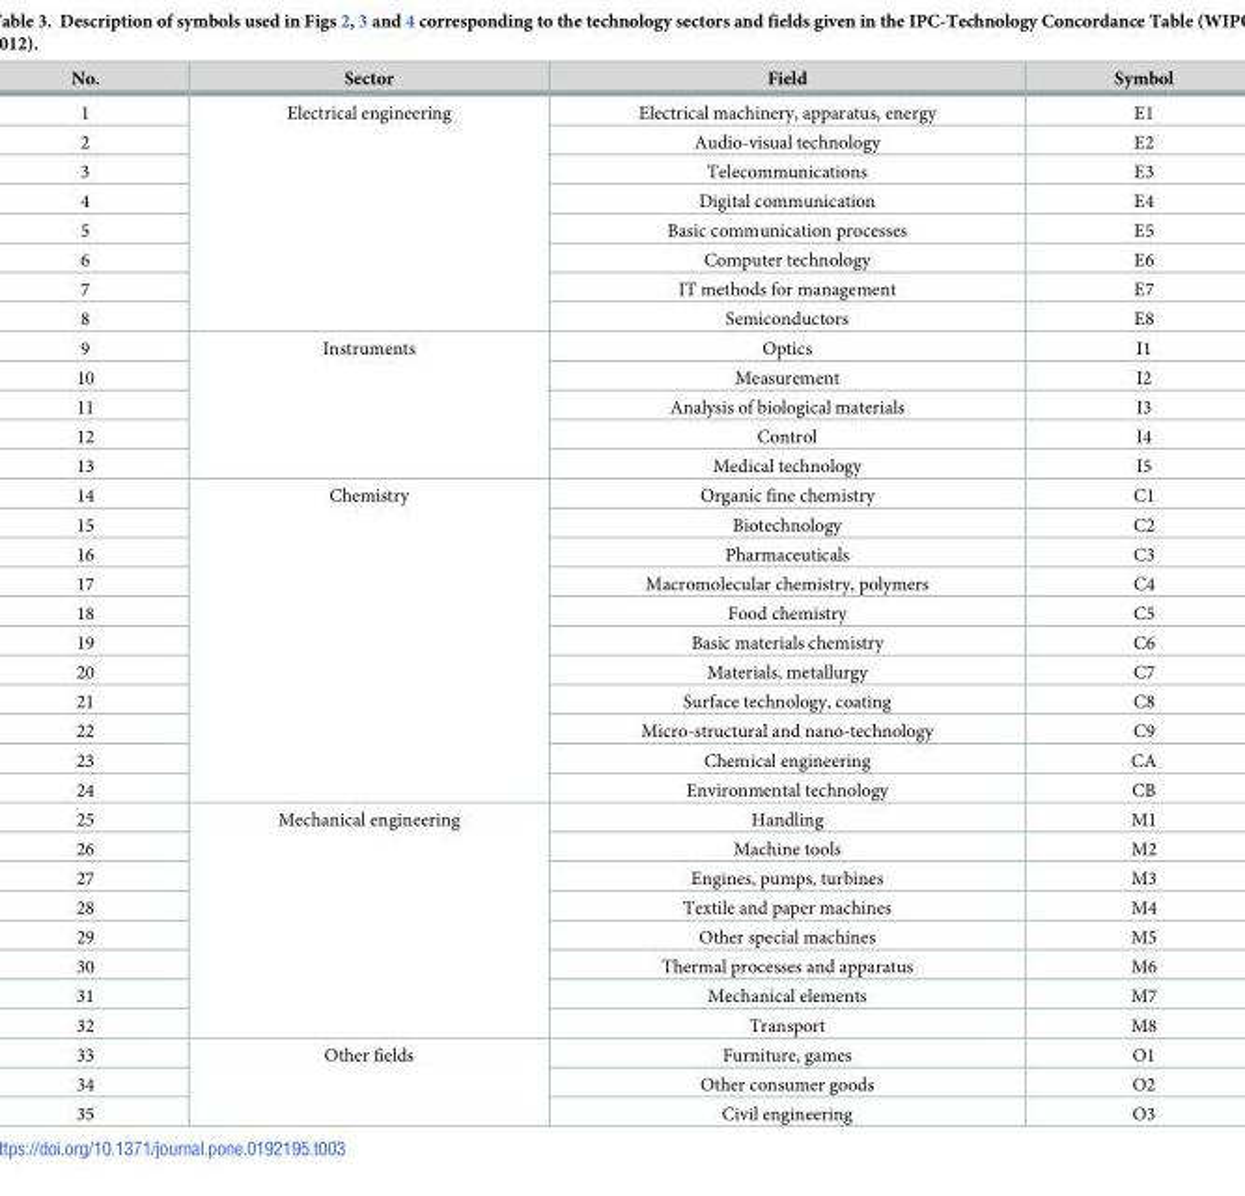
<table><thead><tr><td>No.</td><td>Sector</td><td>Field</td><td>Symbol</td></tr></thead><tbody><tr><td>1</td><td rowspan="8">Electrical engineering</td><td>Electrical machinery, apparatus, energy</td><td>E1</td></tr><tr><td>2</td><td>Audio-visual technology</td><td>E2</td></tr><tr><td>3</td><td>Telecommunications</td><td>E3</td></tr><tr><td>4</td><td>Digital communication</td><td>E4</td></tr><tr><td>5</td><td>Basic communication processes</td><td>E5</td></tr><tr><td>6</td><td>Computer technology</td><td>E6</td></tr><tr><td>7</td><td>IT methods for management</td><td>E7</td></tr><tr><td>8</td><td>Semiconductors</td><td>E8</td></tr><tr><td>9</td><td rowspan="5">Instruments</td><td>Optics</td><td>I1</td></tr><tr><td>10</td><td>Measurement</td><td>I2</td></tr><tr><td>11</td><td>Analysis of biological materials</td><td>I3</td></tr><tr><td>12</td><td>Control</td><td>I4</td></tr><tr><td>13</td><td>Medical technology</td><td>I5</td></tr><tr><td>14</td><td rowspan="11">Chemistry</td><td>Organic fine chemistry</td><td>C1</td></tr><tr><td>15</td><td>Biotechnology</td><td>C2</td></tr><tr><td>16</td><td>Pharmaceuticals</td><td>C3</td></tr><tr><td>17</td><td>Macromolecular chemistry, polymers</td><td>C4</td></tr><tr><td>18</td><td>Food chemistry</td><td>C5</td></tr><tr><td>19</td><td>Basic materials chemistry</td><td>C6</td></tr><tr><td>20</td><td>Materials, metallurgy</td><td>C7</td></tr><tr><td>21</td><td>Surface technology, coating</td><td>C8</td></tr><tr><td>22</td><td>Micro-structural and nano-technology</td><td>C9</td></tr><tr><td>23</td><td>Chemical engineering</td><td>CA</td></tr><tr><td>24</td><td>Environmental technology</td><td>CB</td></tr><tr><td>25</td><td rowspan="8">Mechanical engineering</td><td>Handling</td><td>M1</td></tr><tr><td>26</td><td>Machine tools</td><td>M2</td></tr><tr><td>27</td><td>Engines, pumps, turbines</td><td>M3</td></tr><tr><td>28</td><td>Textile and paper machines</td><td>M4</td></tr><tr><td>29</td><td>Other special machines</td><td>M5</td></tr><tr><td>30</td><td>Thermal processes and apparatus</td><td>M6</td></tr><tr><td>31</td><td>Mechanical elements</td><td>M7</td></tr><tr><td>32</td><td>Transport</td><td>M8</td></tr><tr><td>33</td><td rowspan="3">Other fields</td><td>Furniture, games</td><td>O1</td></tr><tr><td>34</td><td>Other consumer goods</td><td>O2</td></tr><tr><td>35</td><td>Civil engineering</td><td>O3</td></tr></tbody></table>